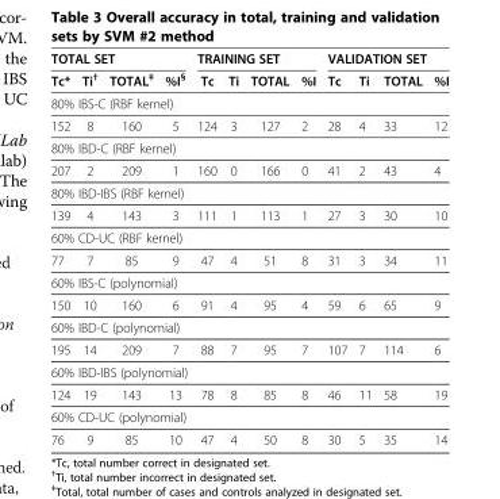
<table><thead><tr><td colspan="4">TOTAL SET</td><td colspan="4">TRAINING SET</td><td colspan="4">VALIDATION SET</td></tr><tr><td>Tc*</td><td>Ti<sup>†</sup></td><td>TOTAL<sup>‡</sup></td><td>%I<sup>§</sup></td><td>Tc</td><td>Ti</td><td>TOTAL</td><td>%I</td><td>Tc</td><td>Ti</td><td>TOTAL</td><td>%I</td></tr></thead><tbody><tr><td colspan="12">80% IBS-C (RBF kernel)</td></tr><tr><td>152</td><td>8</td><td>160</td><td>5</td><td>124</td><td>3</td><td>127</td><td>2</td><td>28</td><td>4</td><td>33</td><td>12</td></tr><tr><td colspan="12">80% IBD-C (RBF kernel)</td></tr><tr><td>207</td><td>2</td><td>209</td><td>1</td><td>160</td><td>0</td><td>166</td><td>0</td><td>41</td><td>2</td><td>43</td><td>4</td></tr><tr><td colspan="12">80% IBD-IBS (RBF kernel)</td></tr><tr><td>139</td><td>4</td><td>143</td><td>3</td><td>111</td><td>1</td><td>113</td><td>1</td><td>27</td><td>3</td><td>30</td><td>10</td></tr><tr><td colspan="12">60% CD-UC (RBF kernel)</td></tr><tr><td>77</td><td>7</td><td>85</td><td>9</td><td>47</td><td>4</td><td>51</td><td>8</td><td>31</td><td>3</td><td>34</td><td>11</td></tr><tr><td colspan="12">60% IBS-C (polynomial)</td></tr><tr><td>150</td><td>10</td><td>160</td><td>6</td><td>91</td><td>4</td><td>95</td><td>4</td><td>59</td><td>6</td><td>65</td><td>9</td></tr><tr><td colspan="12">60% IBD-C (polynomial)</td></tr><tr><td>195</td><td>14</td><td>209</td><td>7</td><td>88</td><td>7</td><td>95</td><td>7</td><td>107</td><td>7</td><td>114</td><td>6</td></tr><tr><td colspan="12">60% IBD-IBS (polynomial)</td></tr><tr><td>124</td><td>19</td><td>143</td><td>13</td><td>78</td><td>8</td><td>85</td><td>8</td><td>46</td><td>11</td><td>58</td><td>19</td></tr><tr><td colspan="12">60% CD-UC (polynomial)</td></tr><tr><td>76</td><td>9</td><td>85</td><td>10</td><td>47</td><td>4</td><td>50</td><td>8</td><td>30</td><td>5</td><td>35</td><td>14</td></tr></tbody></table>